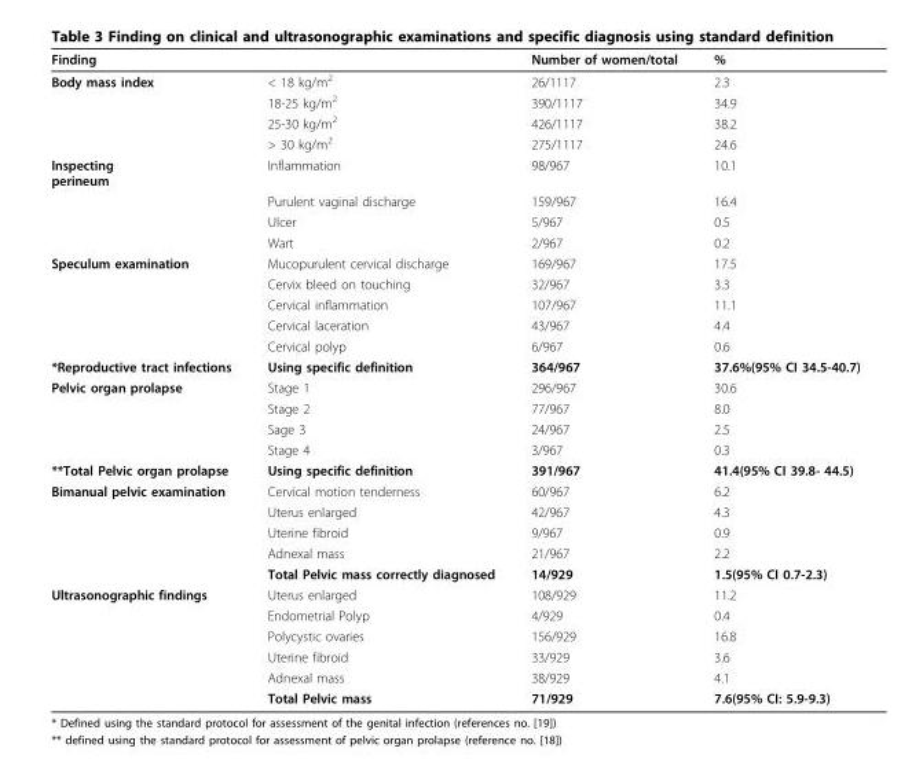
<table><thead><tr><td>Finding</td><td></td><td>Number of women/total</td><td>%</td></tr></thead><tbody><tr><td rowspan="4">Body mass index</td><td>&lt; 18 kg/m<sup>2</sup></td><td>26/1117</td><td>2.3</td></tr><tr><td>18-25 kg/m<sup>2</sup></td><td>390/1117</td><td>34.9</td></tr><tr><td>25-30 kg/m<sup>2</sup></td><td>426/1117</td><td>38.2</td></tr><tr><td>&gt; 30 kg/m<sup>2</sup></td><td>275/1117</td><td>24.6</td></tr><tr><td rowspan="4">Inspecting perineum</td><td>Inflammation</td><td>98/967</td><td>10.1</td></tr><tr><td>Purulent vaginal discharge</td><td>159/967</td><td>16.4</td></tr><tr><td>Ulcer</td><td>5/967</td><td>0.5</td></tr><tr><td>Wart</td><td>2/967</td><td>0.2</td></tr><tr><td rowspan="5">Speculum examination</td><td>Mucopurulent cervical discharge</td><td>169/967</td><td>17.5</td></tr><tr><td>Cervix bleed on touching</td><td>32/967</td><td>3.3</td></tr><tr><td>Cervical inflammation</td><td>107/967</td><td>11.1</td></tr><tr><td>Cervical laceration</td><td>43/967</td><td>4.4</td></tr><tr><td>Cervical polyp</td><td>6/967</td><td>0.6</td></tr><tr><td>*Reproductive tract infections</td><td>Using specific definition</td><td>364/967</td><td>37.6%(95% CI 34.5-40.7)</td></tr><tr><td rowspan="4">Pelvic organ prolapse</td><td>Stage 1</td><td>296/967</td><td>30.6</td></tr><tr><td>Stage 2</td><td>77/967</td><td>8.0</td></tr><tr><td>Sage 3</td><td>24/967</td><td>2.5</td></tr><tr><td>Stage 4</td><td>3/967</td><td>0.3</td></tr><tr><td>**Total Pelvic organ prolapse</td><td>Using specific definition</td><td>391/967</td><td>41.4(95% CI 39.8- 44.5)</td></tr><tr><td rowspan="5">Bimanual pelvic examination</td><td>Cervical motion tenderness</td><td>60/967</td><td>6.2</td></tr><tr><td>Uterus enlarged</td><td>42/967</td><td>4.3</td></tr><tr><td>Uterine fibroid</td><td>9/967</td><td>0.9</td></tr><tr><td>Adnexal mass</td><td>21/967</td><td>2.2</td></tr><tr><td>Total Pelvic mass correctly diagnosed</td><td>14/929</td><td>1.5(95% CI 0.7-2.3)</td></tr><tr><td rowspan="6">Ultrasonographic findings</td><td>Uterus enlarged</td><td>108/929</td><td>11.2</td></tr><tr><td>Endometrial Polyp</td><td>4/929</td><td>0.4</td></tr><tr><td>Polycystic ovaries</td><td>156/929</td><td>16.8</td></tr><tr><td>Uterine fibroid</td><td>33/929</td><td>3.6</td></tr><tr><td>Adnexal mass</td><td>38/929</td><td>4.1</td></tr><tr><td>Total Pelvic mass</td><td>71/929</td><td>7.6(95% CI: 5.9-9.3)</td></tr></tbody></table>